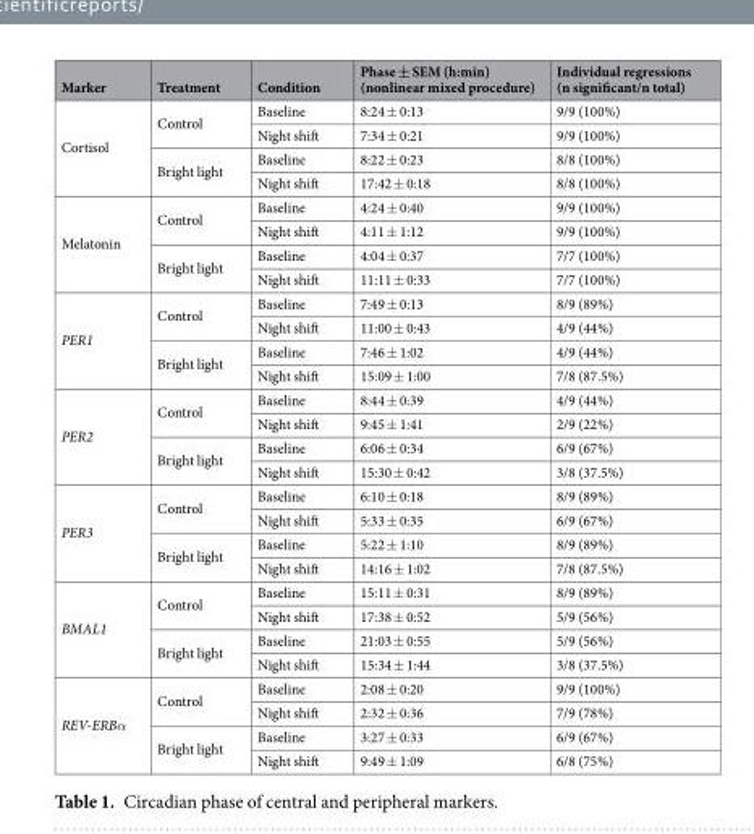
<table><thead><tr><td>Marker</td><td>Treatment</td><td>Condition</td><td>Phase ± SEM (h:min) (nonlinear mixed procedure)</td><td>Individual regressions (n significant/n total)</td></tr></thead><tbody><tr><td rowspan="4">Cortisol</td><td rowspan="2">Control</td><td>Baseline</td><td>8:24 ± 0:13</td><td>9/9 (100%)</td></tr><tr><td>Night shift</td><td>7:34 ± 0:21</td><td>9/9 (100%)</td></tr><tr><td rowspan="2">Bright light</td><td>Baseline</td><td>8:22 ± 0:23</td><td>8/8 (100%)</td></tr><tr><td>Night shift</td><td>17:42 ± 0:18</td><td>8/8 (100%)</td></tr><tr><td rowspan="4">Melatonin</td><td rowspan="2">Control</td><td>Baseline</td><td>4:24 ± 0:40</td><td>9/9 (100%)</td></tr><tr><td>Night shift</td><td>4:11 ± 1:12</td><td>9/9 (100%)</td></tr><tr><td rowspan="2">Bright light</td><td>Baseline</td><td>4:04 ± 0:37</td><td>7/7 (100%)</td></tr><tr><td>Night shift</td><td>11:11 ± 0:33</td><td>7/7 (100%)</td></tr><tr><td rowspan="4">PER1</td><td rowspan="2">Control</td><td>Baseline</td><td>7:49 ± 0:13</td><td>8/9 (89%)</td></tr><tr><td>Night shift</td><td>11:00 ± 0:43</td><td>4/9 (44%)</td></tr><tr><td rowspan="2">Bright light</td><td>Baseline</td><td>7:46 ± 1:02</td><td>4/9 (44%)</td></tr><tr><td>Night shift</td><td>15:09 ± 1:00</td><td>7/8 (87.5%)</td></tr><tr><td rowspan="4">PER2</td><td rowspan="2">Control</td><td>Baseline</td><td>8:44 ± 0:39</td><td>4/9 (44%)</td></tr><tr><td>Night shift</td><td>9:45 ± 1:41</td><td>2/9 (22%)</td></tr><tr><td rowspan="2">Bright light</td><td>Baseline</td><td>6:06 ± 0:34</td><td>6/9 (67%)</td></tr><tr><td>Night shift</td><td>15:30 ± 0:42</td><td>3/8 (37.5%)</td></tr><tr><td rowspan="4">PER3</td><td rowspan="2">Control</td><td>Baseline</td><td>6:10 ± 0:18</td><td>8/9 (89%)</td></tr><tr><td>Night shift</td><td>5:33 ± 0:35</td><td>6/9 (67%)</td></tr><tr><td rowspan="2">Bright light</td><td>Baseline</td><td>5:22 ± 1:10</td><td>8/9 (89%)</td></tr><tr><td>Night shift</td><td>14:16 ± 1:02</td><td>7/8 (87.5%)</td></tr><tr><td rowspan="4">BMAL1</td><td rowspan="2">Control</td><td>Baseline</td><td>15:11 ± 0:31</td><td>8/9 (89%)</td></tr><tr><td>Night shift</td><td>17:38 ± 0:52</td><td>5/9 (56%)</td></tr><tr><td rowspan="2">Bright light</td><td>Baseline</td><td>21:03 ± 0:55</td><td>5/9 (56%)</td></tr><tr><td>Night shift</td><td>15:34 ± 1:44</td><td>3/8 (37.5%)</td></tr><tr><td rowspan="4">REV-ERBα</td><td rowspan="2">Control</td><td>Baseline</td><td>2:08 ± 0:20</td><td>9/9 (100%)</td></tr><tr><td>Night shift</td><td>2:32 ± 0:36</td><td>7/9 (78%)</td></tr><tr><td rowspan="2">Bright light</td><td>Baseline</td><td>3:27 ± 0:33</td><td>6/9 (67%)</td></tr><tr><td>Night shift</td><td>9:49 ± 1:09</td><td>6/8 (75%)</td></tr></tbody></table>